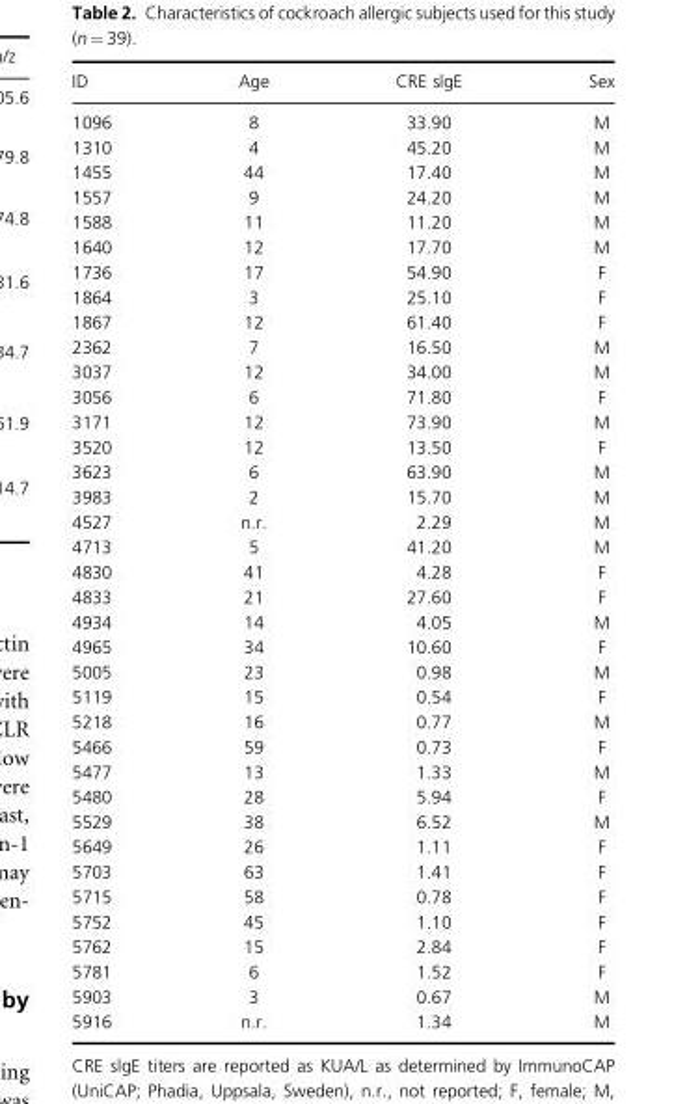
<table><thead><tr><td>ID</td><td>Age</td><td>CRE slgE</td><td>Sex</td></tr></thead><tbody><tr><td>1096</td><td>8</td><td>33.90</td><td>M</td></tr><tr><td>1310</td><td>4</td><td>45.20</td><td>M</td></tr><tr><td>1455</td><td>44</td><td>17.40</td><td>M</td></tr><tr><td>1557</td><td>9</td><td>24.20</td><td>M</td></tr><tr><td>1588</td><td>11</td><td>11.20</td><td>M</td></tr><tr><td>1640</td><td>12</td><td>17.70</td><td>M</td></tr><tr><td>1736</td><td>17</td><td>54.90</td><td>F</td></tr><tr><td>1864</td><td>3</td><td>25.10</td><td>F</td></tr><tr><td>1867</td><td>12</td><td>61.40</td><td>F</td></tr><tr><td>2362</td><td>7</td><td>16.50</td><td>M</td></tr><tr><td>3037</td><td>12</td><td>34.00</td><td>M</td></tr><tr><td>3056</td><td>6</td><td>71.80</td><td>F</td></tr><tr><td>3171</td><td>12</td><td>73.90</td><td>M</td></tr><tr><td>3520</td><td>12</td><td>13.50</td><td>F</td></tr><tr><td>3623</td><td>6</td><td>63.90</td><td>M</td></tr><tr><td>3983</td><td>2</td><td>15.70</td><td>M</td></tr><tr><td>4527</td><td>n.r.</td><td>2.29</td><td>M</td></tr><tr><td>4713</td><td>5</td><td>41.20</td><td>M</td></tr><tr><td>4830</td><td>41</td><td>4.28</td><td>F</td></tr><tr><td>4833</td><td>21</td><td>27.60</td><td>F</td></tr><tr><td>4934</td><td>14</td><td>4.05</td><td>M</td></tr><tr><td>4965</td><td>34</td><td>10.60</td><td>F</td></tr><tr><td>5005</td><td>23</td><td>0.98</td><td>M</td></tr><tr><td>5119</td><td>15</td><td>0.54</td><td>F</td></tr><tr><td>5218</td><td>16</td><td>0.77</td><td>M</td></tr><tr><td>5466</td><td>59</td><td>0.73</td><td>F</td></tr><tr><td>5477</td><td>13</td><td>1.33</td><td>M</td></tr><tr><td>5480</td><td>28</td><td>5.94</td><td>F</td></tr><tr><td>5529</td><td>38</td><td>6.52</td><td>M</td></tr><tr><td>5649</td><td>26</td><td>1.11</td><td>F</td></tr><tr><td>5703</td><td>63</td><td>1.41</td><td>F</td></tr><tr><td>5715</td><td>58</td><td>0.78</td><td>F</td></tr><tr><td>5752</td><td>45</td><td>1.10</td><td>F</td></tr><tr><td>5762</td><td>15</td><td>2.84</td><td>F</td></tr><tr><td>5781</td><td>6</td><td>1.52</td><td>F</td></tr><tr><td>5903</td><td>3</td><td>0.67</td><td>M</td></tr><tr><td>5916</td><td>n.r.</td><td>1.34</td><td>M</td></tr></tbody></table>